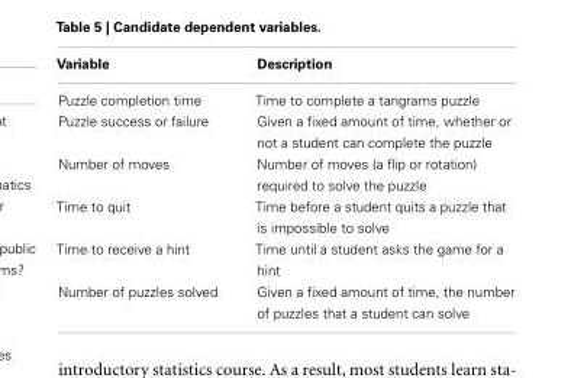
<table><thead><tr><td>Variable</td><td>Description</td></tr></thead><tbody><tr><td>Puzzle completion time</td><td>Time to complete a tangrams puzzle</td></tr><tr><td>Puzzle success or failure</td><td>Given a fixed amount of time, whether or not a student can complete the puzzle</td></tr><tr><td>Number of moves</td><td>Number of moves (a flip or rotation) required to solve the puzzle</td></tr><tr><td>Time to quit</td><td>Time before a student quits a puzzle that is impossible to solve</td></tr><tr><td>Time to receive a hint</td><td>Time until a student asks the game for a hint</td></tr><tr><td>Number of puzzles solved</td><td>Given a fixed amount of time, the number of puzzles that a student can solve</td></tr></tbody></table>